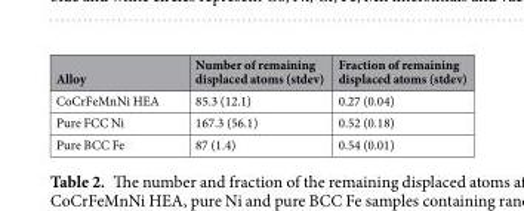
<table><thead><tr><td>Alloy</td><td>Number of remaining displaced atoms (stdev)</td><td>Fraction of remaining displaced atoms (stdev)</td></tr></thead><tbody><tr><td>CoCrFeMnNi HEA</td><td>85.3 (12.1)</td><td>0.27 (0.04)</td></tr><tr><td>Pure FCC Ni</td><td>167.3 (56.1)</td><td>0.52 (0.18)</td></tr><tr><td>Pure BCC Fe</td><td>87 (1.4)</td><td>0.54 (0.01)</td></tr></tbody></table>